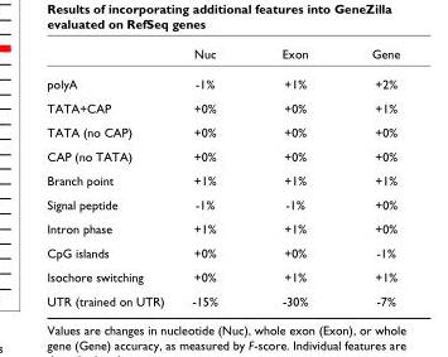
<table><thead><tr><td></td><td>Nuc</td><td>Exon</td><td>Gene</td></tr></thead><tbody><tr><td>polyA</td><td>-1%</td><td>+1%</td><td>+2%</td></tr><tr><td>TATA+CAP</td><td>+0%</td><td>+0%</td><td>+1%</td></tr><tr><td>TATA (no CAP)</td><td>+0%</td><td>+0%</td><td>+0%</td></tr><tr><td>CAP (no TATA)</td><td>+0%</td><td>+0%</td><td>+0%</td></tr><tr><td>Branch point</td><td>+1%</td><td>+1%</td><td>+1%</td></tr><tr><td>Signal peptide</td><td>-1%</td><td>-1%</td><td>+0%</td></tr><tr><td>Intron phase</td><td>+1%</td><td>+1%</td><td>+0%</td></tr><tr><td>CpG islands</td><td>+0%</td><td>+0%</td><td>-1%</td></tr><tr><td>Isochore switching</td><td>+0%</td><td>+1%</td><td>+1%</td></tr><tr><td>UTR (trained on UTR)</td><td>-15%</td><td>-30%</td><td>-7%</td></tr></tbody></table>